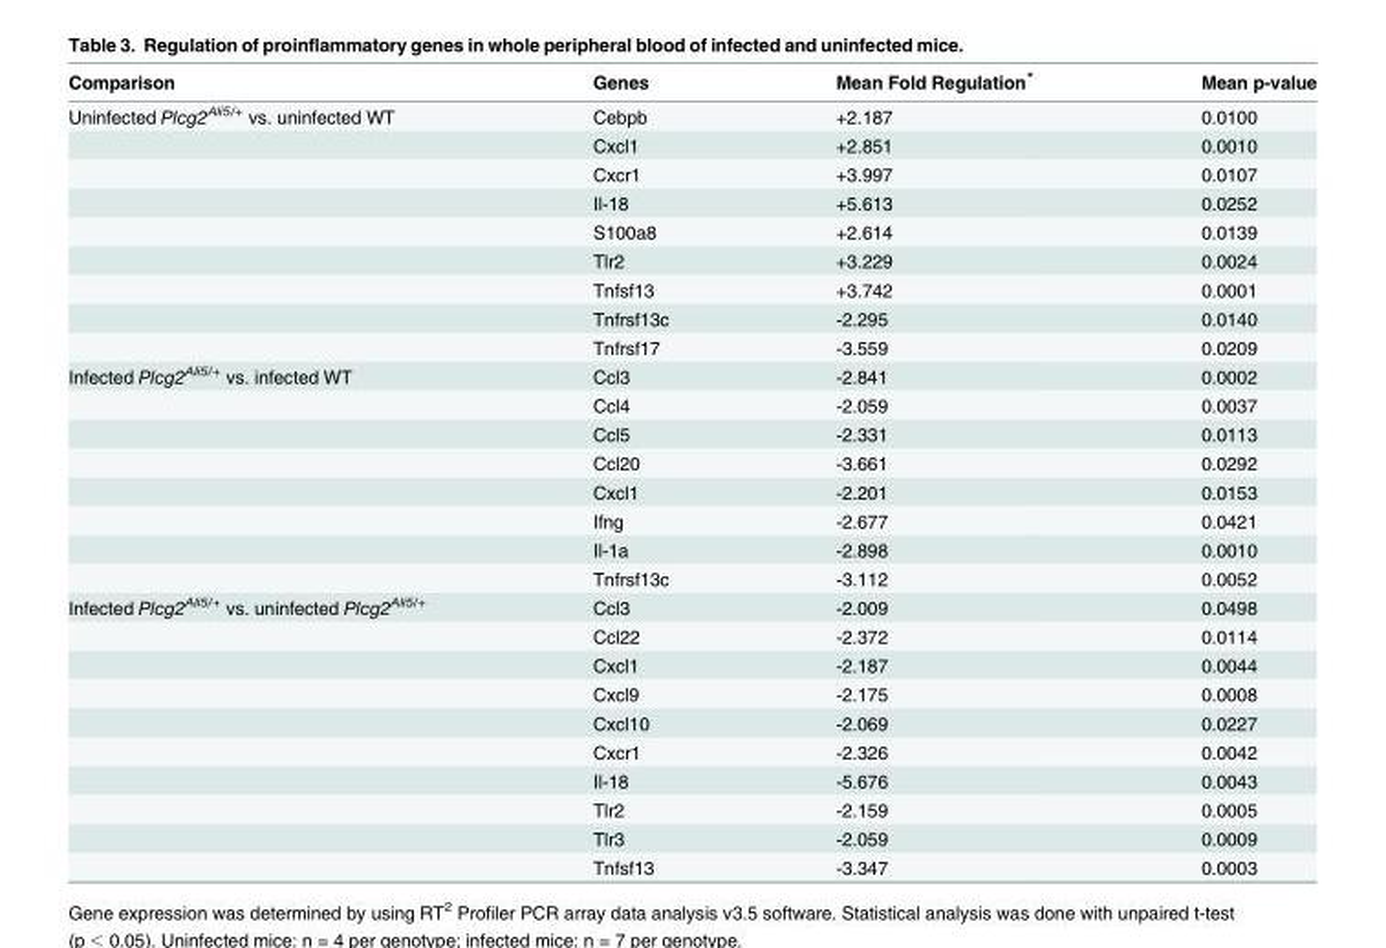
<table><thead><tr><td>Comparison</td><td>Genes</td><td>Mean Fold Regulation*</td><td>Mean p-value</td></tr></thead><tbody><tr><td rowspan="9">Uninfected Plcg2<sup>Ali5/+</sup> vs. uninfected WT</td><td>Cebpb</td><td>+2.187</td><td>0.0100</td></tr><tr><td>Cxcl1</td><td>+2.851</td><td>0.0010</td></tr><tr><td>Cxcr1</td><td>+3.997</td><td>0.0107</td></tr><tr><td>Il-18</td><td>+5.613</td><td>0.0252</td></tr><tr><td>S100a8</td><td>+2.614</td><td>0.0139</td></tr><tr><td>Tlr2</td><td>+3.229</td><td>0.0024</td></tr><tr><td>Tnfsf13</td><td>+3.742</td><td>0.0001</td></tr><tr><td>Tnfrsf13c</td><td>-2.295</td><td>0.0140</td></tr><tr><td>Tnfrsf17</td><td>-3.559</td><td>0.0209</td></tr><tr><td rowspan="8">Infected Plcg2<sup>Ali5/+</sup> vs. infected WT</td><td>Ccl3</td><td>-2.841</td><td>0.0002</td></tr><tr><td>Ccl4</td><td>-2.059</td><td>0.0037</td></tr><tr><td>Ccl5</td><td>-2.331</td><td>0.0113</td></tr><tr><td>Ccl20</td><td>-3.661</td><td>0.0292</td></tr><tr><td>Cxcl1</td><td>-2.201</td><td>0.0153</td></tr><tr><td>Ifng</td><td>-2.677</td><td>0.0421</td></tr><tr><td>Il-1a</td><td>-2.898</td><td>0.0010</td></tr><tr><td>Tnfrsf13c</td><td>-3.112</td><td>0.0052</td></tr><tr><td rowspan="10">Infected Plcg2<sup>Ali5/+</sup> vs. uninfected Plcg2<sup>Ali5/+</sup></td><td>Ccl3</td><td>-2.009</td><td>0.0498</td></tr><tr><td>Ccl22</td><td>-2.372</td><td>0.0114</td></tr><tr><td>Cxcl1</td><td>-2.187</td><td>0.0044</td></tr><tr><td>Cxcl9</td><td>-2.175</td><td>0.0008</td></tr><tr><td>Cxcl10</td><td>-2.069</td><td>0.0227</td></tr><tr><td>Cxcr1</td><td>-2.326</td><td>0.0042</td></tr><tr><td>Il-18</td><td>-5.676</td><td>0.0043</td></tr><tr><td>Tlr2</td><td>-2.159</td><td>0.0005</td></tr><tr><td>Tlr3</td><td>-2.059</td><td>0.0009</td></tr><tr><td>Tnfsf13</td><td>-3.347</td><td>0.0003</td></tr></tbody></table>